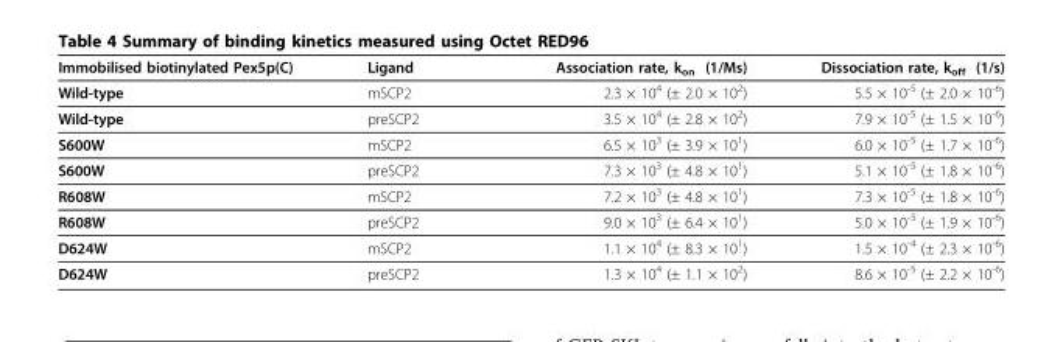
<table><thead><tr><td>Immobilised biotinylated Pex5p(C)</td><td>Ligand</td><td>Association rate, k<sub>on</sub> (1/Ms)</td><td>Dissociation rate, k<sub>off</sub> (1/s)</td></tr></thead><tbody><tr><td>Wild-type</td><td>mSCP2</td><td>2.3 × 10<sup>4</sup> (± 2.0 × 10<sup>2</sup>)</td><td>5.5 × 10<sup>-5</sup> (± 2.0 × 10<sup>-6</sup>)</td></tr><tr><td>Wild-type</td><td>preSCP2</td><td>3.5 × 10<sup>4</sup> (± 2.8 × 10<sup>2</sup>)</td><td>7.9 × 10<sup>-5</sup> (± 1.5 × 10<sup>-6</sup>)</td></tr><tr><td>S600W</td><td>mSCP2</td><td>6.5 × 10<sup>3</sup> (± 3.9 × 10<sup>1</sup>)</td><td>6.0 × 10<sup>-5</sup> (± 1.7 × 10<sup>-6</sup>)</td></tr><tr><td>S600W</td><td>preSCP2</td><td>7.3 × 10<sup>3</sup> (± 4.8 × 10<sup>1</sup>)</td><td>5.1 × 10<sup>-5</sup> (± 1.8 × 10<sup>-6</sup>)</td></tr><tr><td>R608W</td><td>mSCP2</td><td>7.2 × 10<sup>3</sup> (± 4.8 × 10<sup>1</sup>)</td><td>7.3 × 10<sup>-5</sup> (± 1.8 × 10<sup>-6</sup>)</td></tr><tr><td>R608W</td><td>preSCP2</td><td>9.0 × 10<sup>3</sup> (± 6.4 × 10<sup>1</sup>)</td><td>5.0 × 10<sup>-5</sup> (± 1.9 × 10<sup>-6</sup>)</td></tr><tr><td>D624W</td><td>mSCP2</td><td>1.1 × 10<sup>4</sup> (± 8.3 × 10<sup>1</sup>)</td><td>1.5 × 10<sup>-4</sup> (± 2.3 × 10<sup>-6</sup>)</td></tr><tr><td>D624W</td><td>preSCP2</td><td>1.3 × 10<sup>4</sup> (± 1.1 × 10<sup>2</sup>)</td><td>8.6 × 10<sup>-5</sup> (± 2.2 × 10<sup>-6</sup>)</td></tr></tbody></table>